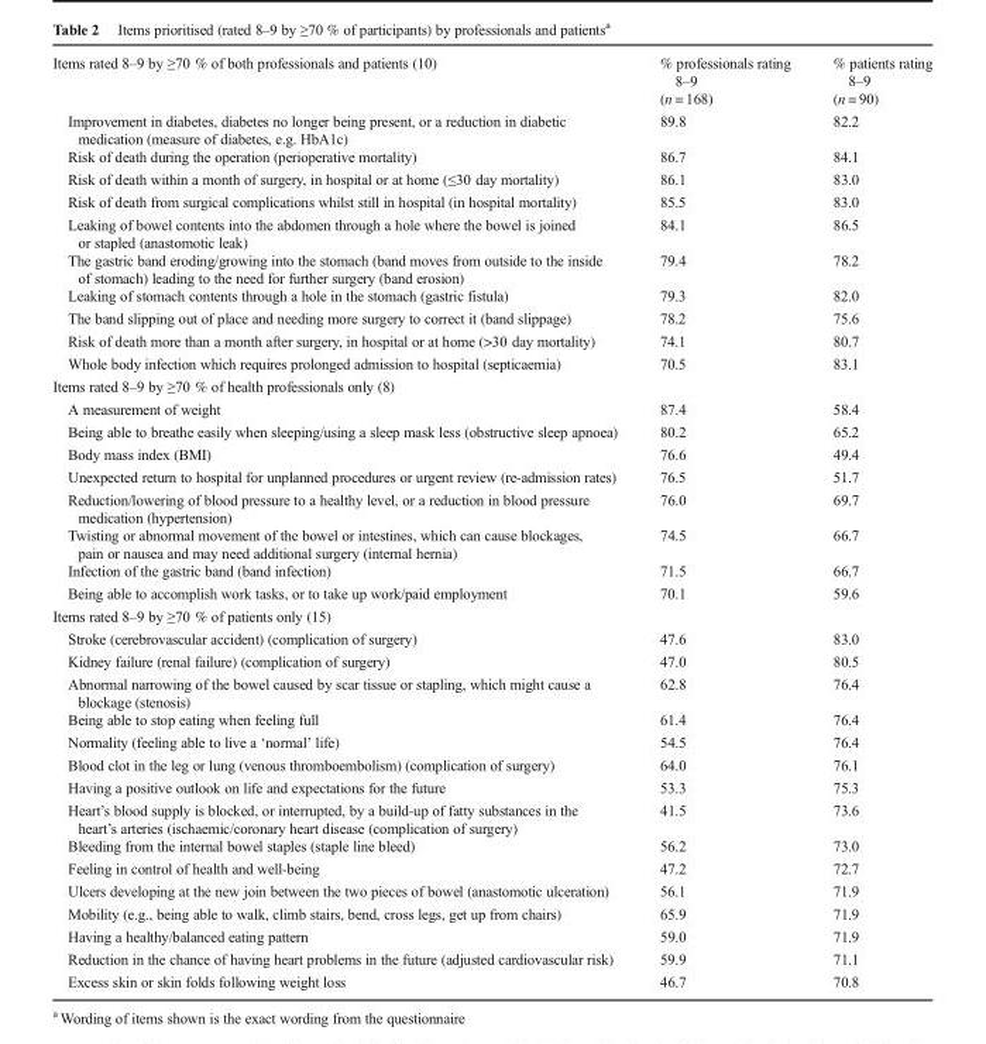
<table><tbody><tr><td>Items rated 8–9 by ≥70 % of both professionals and patients (10)</td><td>% professionals rating 8–9 (n = 168)</td><td>% patients rating 8–9 (n = 90)</td></tr><tr><td>Improvement in diabetes, diabetes no longer being present, or a reduction in diabetic medication (measure of diabetes, e.g. HbA1c)</td><td>89.8</td><td>82.2</td></tr><tr><td>Risk of death during the operation (perioperative mortality)</td><td>86.7</td><td>84.1</td></tr><tr><td>Risk of death within a month of surgery, in hospital or at home (≤30 day mortality)</td><td>86.1</td><td>83.0</td></tr><tr><td>Risk of death from surgical complications whilst still in hospital (in hospital mortality)</td><td>85.5</td><td>83.0</td></tr><tr><td>Leaking of bowel contents into the abdomen through a hole where the bowel is joined or stapled (anastomotic leak)</td><td>84.1</td><td>86.5</td></tr><tr><td>The gastric band eroding/growing into the stomach (band moves from outside to the inside of stomach) leading to the need for further surgery (band erosion)</td><td>79.4</td><td>78.2</td></tr><tr><td>Leaking of stomach contents through a hole in the stomach (gastric fistula)</td><td>79.3</td><td>82.0</td></tr><tr><td>The band slipping out of place and needing more surgery to correct it (band slippage)</td><td>78.2</td><td>75.6</td></tr><tr><td>Risk of death more than a month after surgery, in hospital or at home (&gt;30 day mortality)</td><td>74.1</td><td>80.7</td></tr><tr><td>Whole body infection which requires prolonged admission to hospital (septicaemia)</td><td>70.5</td><td>83.1</td></tr><tr><td colspan="3">Items rated 8–9 by ≥70 % of health professionals only (8)</td></tr><tr><td>A measurement of weight</td><td>87.4</td><td>58.4</td></tr><tr><td>Being able to breathe easily when sleeping/using a sleep mask less (obstructive sleep apnoea)</td><td>80.2</td><td>65.2</td></tr><tr><td>Body mass index (BMI)</td><td>76.6</td><td>49.4</td></tr><tr><td>Unexpected return to hospital for unplanned procedures or urgent review (re-admission rates)</td><td>76.5</td><td>51.7</td></tr><tr><td>Reduction/lowering of blood pressure to a healthy level, or a reduction in blood pressure medication (hypertension)</td><td>76.0</td><td>69.7</td></tr><tr><td>Twisting or abnormal movement of the bowel or intestines, which can cause blockages, pain or nausea and may need additional surgery (internal hernia)</td><td>74.5</td><td>66.7</td></tr><tr><td>Infection of the gastric band (band infection)</td><td>71.5</td><td>66.7</td></tr><tr><td>Being able to accomplish work tasks, or to take up work/paid employment</td><td>70.1</td><td>59.6</td></tr><tr><td colspan="3">Items rated 8–9 by ≥70 % of patients only (15)</td></tr><tr><td>Stroke (cerebrovascular accident) (complication of surgery)</td><td>47.6</td><td>83.0</td></tr><tr><td>Kidney failure (renal failure) (complication of surgery)</td><td>47.0</td><td>80.5</td></tr><tr><td>Abnormal narrowing of the bowel caused by scar tissue or stapling, which might cause a blockage (stenosis)</td><td>62.8</td><td>76.4</td></tr><tr><td>Being able to stop eating when feeling full</td><td>61.4</td><td>76.4</td></tr><tr><td>Normality (feeling able to live a ‘normal’ life)</td><td>54.5</td><td>76.4</td></tr><tr><td>Blood clot in the leg or lung (venous thromboembolism) (complication of surgery)</td><td>64.0</td><td>76.1</td></tr><tr><td>Having a positive outlook on life and expectations for the future</td><td>53.3</td><td>75.3</td></tr><tr><td>Heart’s blood supply is blocked, or interrupted, by a build-up of fatty substances in the heart’s arteries (ischaemic/coronary heart disease (complication of surgery)</td><td>41.5</td><td>73.6</td></tr><tr><td>Bleeding from the internal bowel staples (staple line bleed)</td><td>56.2</td><td>73.0</td></tr><tr><td>Feeling in control of health and well-being</td><td>47.2</td><td>72.7</td></tr><tr><td>Ulcers developing at the new join between the two pieces of bowel (anastomotic ulceration)</td><td>56.1</td><td>71.9</td></tr><tr><td>Mobility (e.g., being able to walk, climb stairs, bend, cross legs, get up from chairs)</td><td>65.9</td><td>71.9</td></tr><tr><td>Having a healthy/balanced eating pattern</td><td>59.0</td><td>71.9</td></tr><tr><td>Reduction in the chance of having heart problems in the future (adjusted cardiovascular risk)</td><td>59.9</td><td>71.1</td></tr><tr><td>Excess skin or skin folds following weight loss</td><td>46.7</td><td>70.8</td></tr></tbody></table>